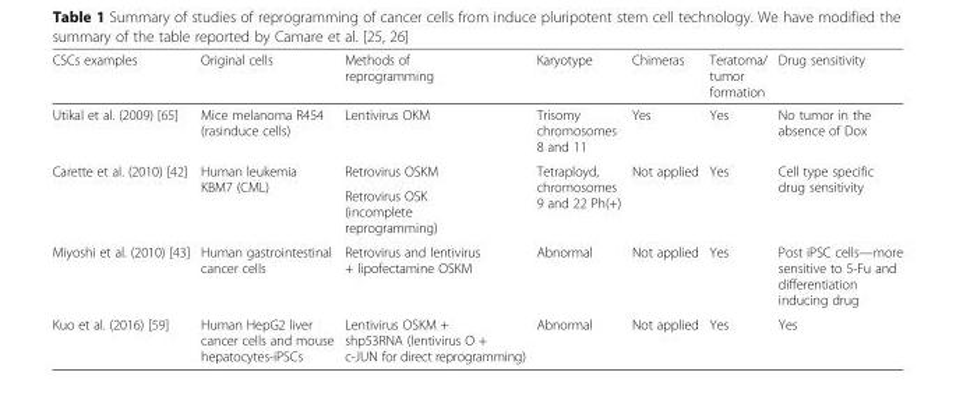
<table><thead><tr><td>CSCs examples</td><td>Original cells</td><td>Methods of reprogramming</td><td>Karyotype</td><td>Chimeras</td><td>Teratoma/ tumor formation</td><td>Drug sensitivity</td></tr></thead><tbody><tr><td>Utikal et al. (2009) [65]</td><td>Mice melanoma R454 (rasinduce cells)</td><td>Lentivirus OKM</td><td>Trisomy chromosomes 8 and 11</td><td>Yes</td><td>Yes</td><td>No tumor in the absence of Dox</td></tr><tr><td rowspan="2">Carette et al. (2010) [42]</td><td rowspan="2">Human leukemia KBM7 (CML)</td><td>Retrovirus OSKM</td><td rowspan="2">Tetraployd, chromosomes 9 and 22 Ph(+)</td><td rowspan="2">Not applied</td><td rowspan="2">Yes</td><td rowspan="2">Cell type specific drug sensitivity</td></tr><tr><td>Retrovirus OSK (incomplete reprogramming)</td></tr><tr><td>Miyoshi et al. (2010) [43]</td><td>Human gastrointestinal cancer cells</td><td>Retrovirus and lentivirus + lipofectamine OSKM</td><td>Abnormal</td><td>Not applied</td><td>Yes</td><td>Post iPSC cells—more sensitive to 5-Fu and differentiation inducing drug</td></tr><tr><td>Kuo et al. (2016) [59]</td><td>Human HepG2 liver cancer cells and mouse hepatocytes-iPSCs</td><td>Lentivirus OSKM + shp53RNA (lentivirus O + c-JUN for direct reprogramming)</td><td>Abnormal</td><td>Not applied</td><td>Yes</td><td>Yes</td></tr></tbody></table>